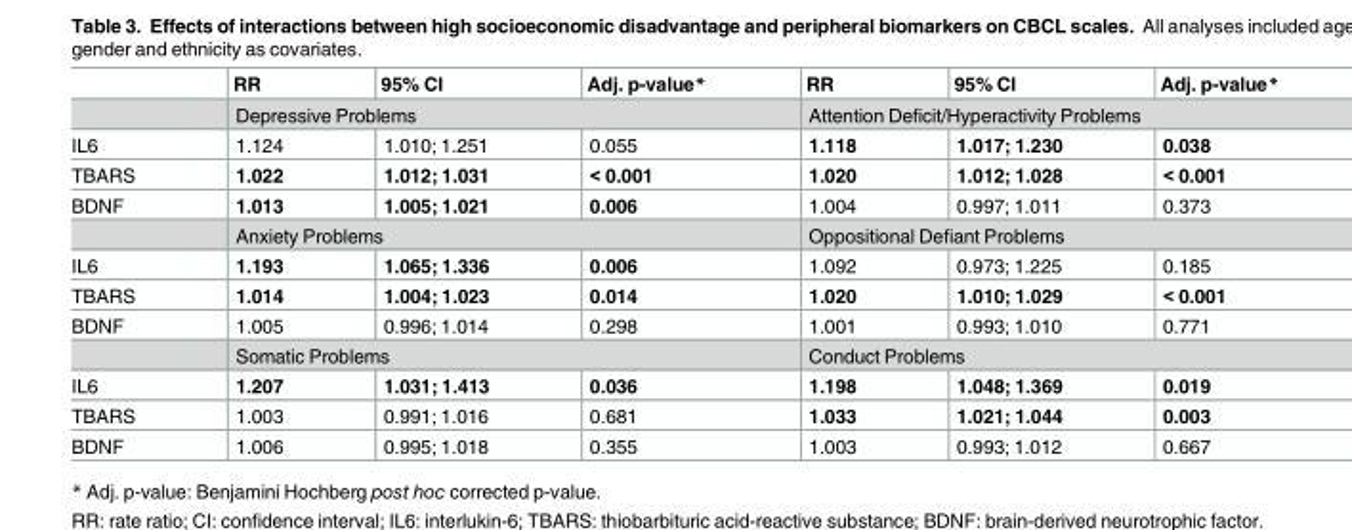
<table><thead><tr><td></td><td>RR</td><td>95% CI</td><td>Adj. p-value*</td><td>RR</td><td>95% CI</td><td>Adj. p-value*</td></tr></thead><tbody><tr><td></td><td colspan="3">Depressive Problems</td><td colspan="3">Attention Deficit/Hyperactivity Problems</td></tr><tr><td>IL6</td><td>1.124</td><td>1.010; 1.251</td><td>0.055</td><td>1.118</td><td>1.017; 1.230</td><td>0.038</td></tr><tr><td>TBARS</td><td>1.022</td><td>1.012; 1.031</td><td>&lt; 0.001</td><td>1.020</td><td>1.012; 1.028</td><td>&lt; 0.001</td></tr><tr><td rowspan="2">BDNF</td><td>1.013</td><td>1.005; 1.021</td><td>0.006</td><td>1.004</td><td>0.997; 1.011</td><td>0.373</td></tr><tr><td colspan="3">Anxiety Problems</td><td colspan="3">Oppositional Defiant Problems</td></tr><tr><td>IL6</td><td>1.193</td><td>1.065; 1.336</td><td>0.006</td><td>1.092</td><td>0.973; 1.225</td><td>0.185</td></tr><tr><td>TBARS</td><td>1.014</td><td>1.004; 1.023</td><td>0.014</td><td>1.020</td><td>1.010; 1.029</td><td>&lt; 0.001</td></tr><tr><td rowspan="2">BDNF</td><td>1.005</td><td>0.996; 1.014</td><td>0.298</td><td>1.001</td><td>0.993; 1.010</td><td>0.771</td></tr><tr><td colspan="3">Somatic Problems</td><td colspan="3">Conduct Problems</td></tr><tr><td>IL6</td><td>1.207</td><td>1.031; 1.413</td><td>0.036</td><td>1.198</td><td>1.048; 1.369</td><td>0.019</td></tr><tr><td>TBARS</td><td>1.003</td><td>0.991; 1.016</td><td>0.681</td><td>1.033</td><td>1.021; 1.044</td><td>0.003</td></tr><tr><td>BDNF</td><td>1.006</td><td>0.995; 1.018</td><td>0.355</td><td>1.003</td><td>0.993; 1.012</td><td>0.667</td></tr></tbody></table>